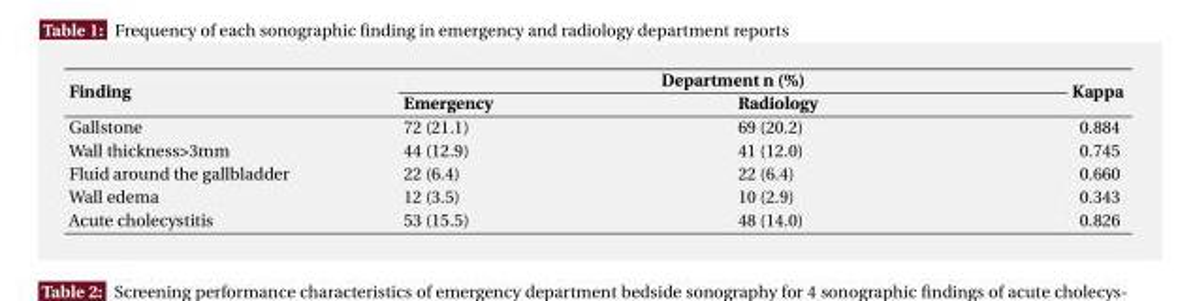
<table><thead><tr><td rowspan="2">Finding</td><td colspan="2">Department n (%)</td><td rowspan="2">Kappa</td></tr><tr><td>Emergency</td><td>Radiology</td></tr></thead><tbody><tr><td>Gallstone</td><td>72 (21.1)</td><td>69 (20.2)</td><td>0.884</td></tr><tr><td>Wall thickness&gt;3mm</td><td>44 (12.9)</td><td>41 (12.0)</td><td>0.745</td></tr><tr><td>Fluid around the gallbladder</td><td>22 (6.4)</td><td>22 (6.4)</td><td>0.660</td></tr><tr><td>Wall edema</td><td>12 (3.5)</td><td>10 (2.9)</td><td>0.343</td></tr><tr><td>Acute cholecystitis</td><td>53 (15.5)</td><td>48 (14.0)</td><td>0.826</td></tr></tbody></table>